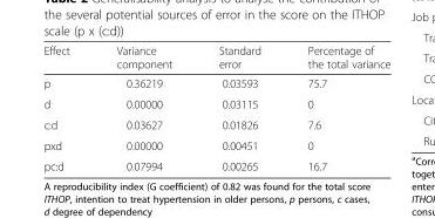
<table><thead><tr><td>Effect</td><td>Variance component</td><td>Standard error</td><td>Percentage of the total variance</td></tr></thead><tbody><tr><td>p</td><td>0.36219</td><td>0.03593</td><td>75.7</td></tr><tr><td>d</td><td>0.00000</td><td>0.03115</td><td>0</td></tr><tr><td>c:d</td><td>0.03627</td><td>0.01826</td><td>7.6</td></tr><tr><td>pxd</td><td>0.00000</td><td>0.00451</td><td>0</td></tr><tr><td>pc:d</td><td>0.07994</td><td>0.00265</td><td>16.7</td></tr></tbody></table>